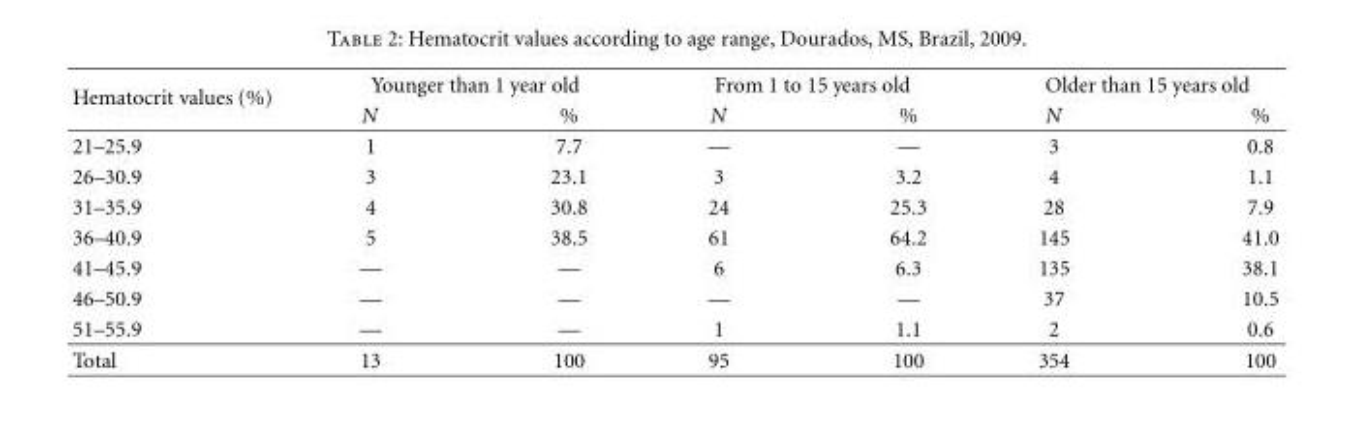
<table><thead><tr><td rowspan="2">Hematocrit values (%)</td><td colspan="2">Younger than 1 year old</td><td colspan="2">From 1 to 15 years old</td><td colspan="2">Older than 15 years old</td></tr><tr><td>N</td><td>%</td><td>N</td><td>%</td><td>N</td><td>%</td></tr></thead><tbody><tr><td>21–25.9</td><td>1</td><td>7.7</td><td>—</td><td>—</td><td>3</td><td>0.8</td></tr><tr><td>26–30.9</td><td>3</td><td>23.1</td><td>3</td><td>3.2</td><td>4</td><td>1.1</td></tr><tr><td>31–35.9</td><td>4</td><td>30.8</td><td>24</td><td>25.3</td><td>28</td><td>7.9</td></tr><tr><td>36–40.9</td><td>5</td><td>38.5</td><td>61</td><td>64.2</td><td>145</td><td>41.0</td></tr><tr><td>41–45.9</td><td>—</td><td>—</td><td>6</td><td>6.3</td><td>135</td><td>38.1</td></tr><tr><td>46–50.9</td><td>—</td><td>—</td><td>—</td><td>—</td><td>37</td><td>10.5</td></tr><tr><td>51–55.9</td><td>—</td><td>—</td><td>1</td><td>1.1</td><td>2</td><td>0.6</td></tr><tr><td>Total</td><td>13</td><td>100</td><td>95</td><td>100</td><td>354</td><td>100</td></tr></tbody></table>